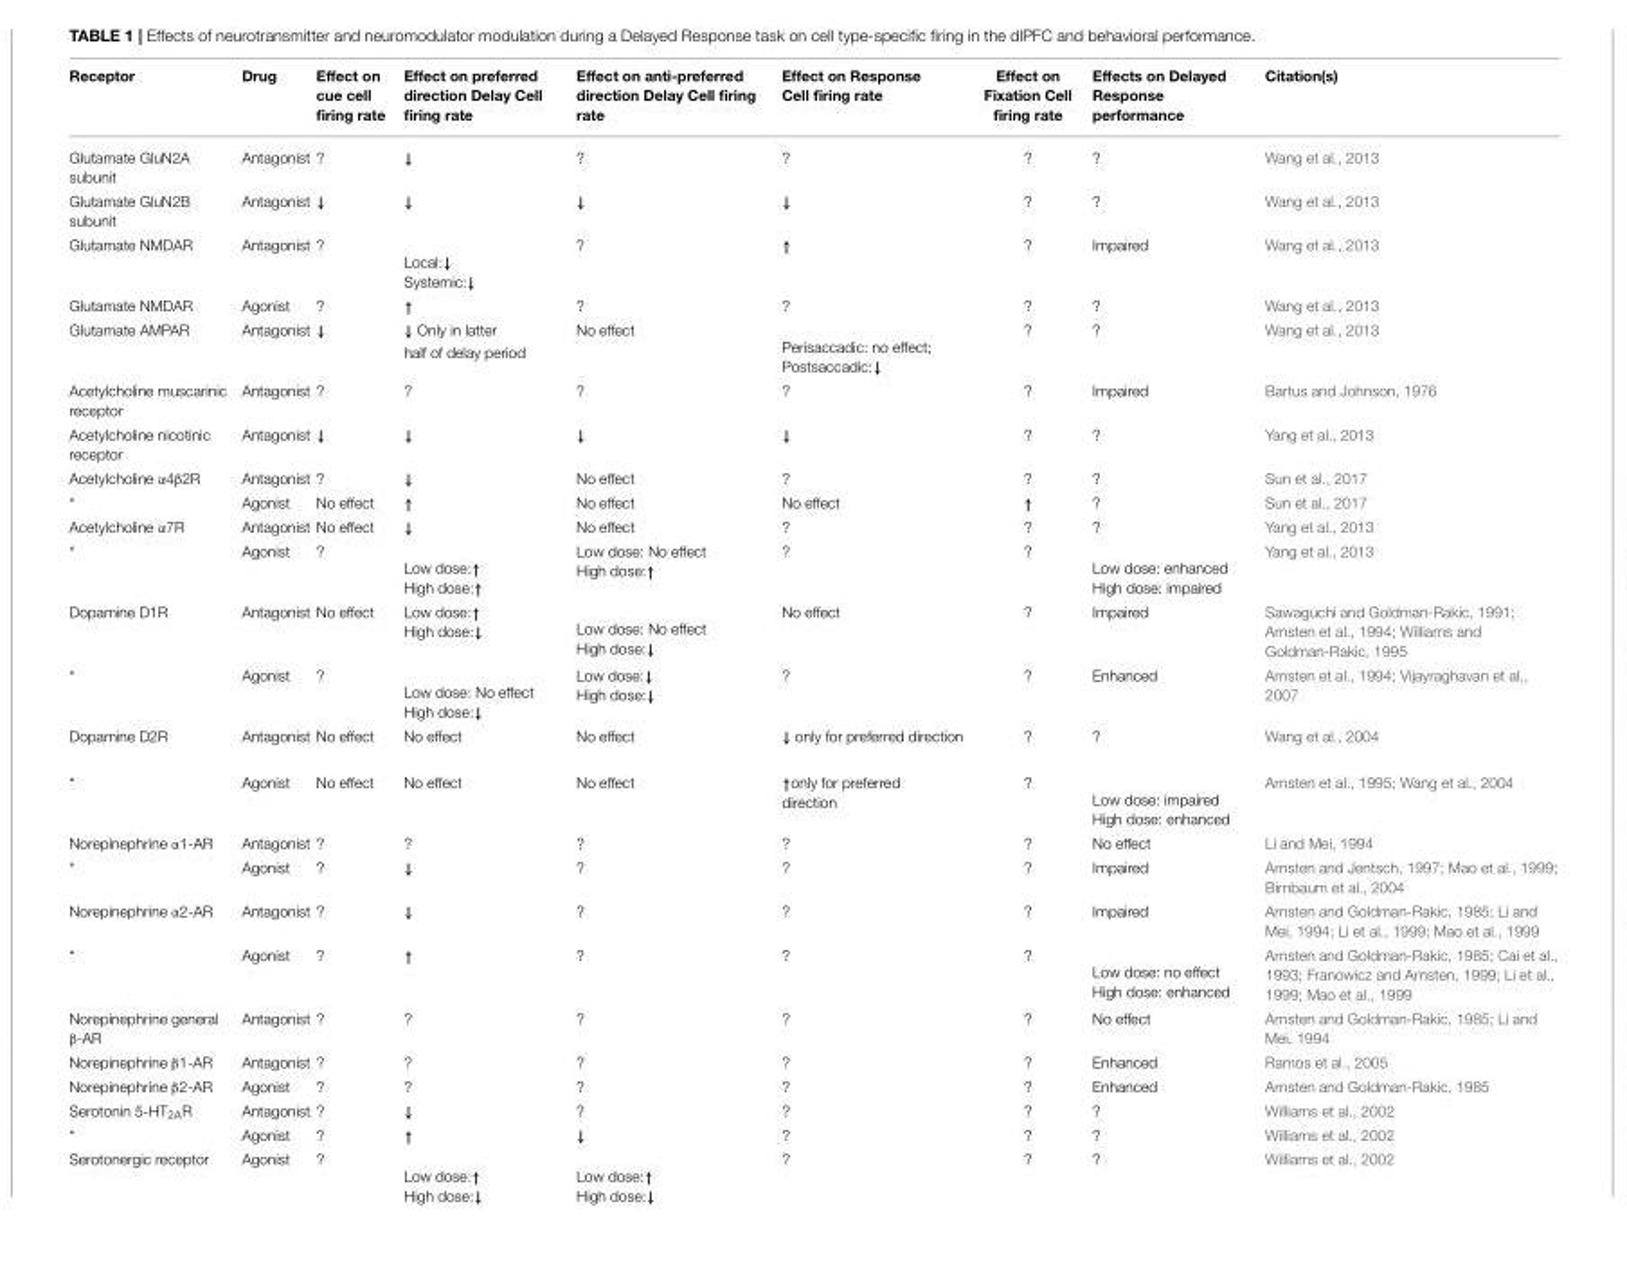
<table><thead><tr><td>Receptor</td><td>Drug</td><td>Effect on cue cell firing rate</td><td>Effect on preferred direction Delay Cell firing rate</td><td>Effect on anti-preferred direction Delay Cell firing rate</td><td>Effect on Response Cell firing rate</td><td>Effect on Fixation Cell firing rate</td><td>Effects on Delayed Response performance</td><td>Citation(s)</td></tr></thead><tbody><tr><td>Glutamate GluN2A subunit</td><td>Antagonist</td><td>?</td><td>↓</td><td>?</td><td>?</td><td>?</td><td>?</td><td>Wang et al., 2013</td></tr><tr><td>Glutamate GluN2B subunit</td><td>Antagonist</td><td>↓</td><td>↓</td><td>↓</td><td>↓</td><td>?</td><td>?</td><td>Wang et al., 2013</td></tr><tr><td>Glutamate NMDAR</td><td>Antagonist</td><td>?</td><td>Local:↓ Systemic:↓</td><td>?</td><td>↑</td><td>?</td><td>Impaired</td><td>Wang et al., 2013</td></tr><tr><td>Glutamate NMDAR</td><td>Agonist</td><td>?</td><td>↑</td><td>?</td><td>?</td><td>?</td><td>?</td><td>Wang et al., 2013</td></tr><tr><td>Glutamate AMPAR</td><td>Antagonist</td><td>↓</td><td>↓ Only in latter half of delay period</td><td>No effect</td><td>Perisaccadic: no effect; Postsaccadic:↓</td><td>?</td><td>?</td><td>Wang et al., 2013</td></tr><tr><td>Acetylcholine muscarinic receptor</td><td>Antagonist</td><td>?</td><td>?</td><td>?</td><td>?</td><td>?</td><td>Impaired</td><td>Bartus and Johnson, 1976</td></tr><tr><td>Acetylcholine nicotinic receptor</td><td>Antagonist</td><td>↓</td><td>↓</td><td>↓</td><td>↓</td><td>?</td><td>?</td><td>Yang et al., 2013</td></tr><tr><td>Acetylcholine α4β2R</td><td>Antagonist</td><td>?</td><td>↓</td><td>No effect</td><td>?</td><td>?</td><td>?</td><td>Sun et al., 2017</td></tr><tr><td>“</td><td>Agonist</td><td>No effect</td><td>↑</td><td>No effect</td><td>No effect</td><td>↑</td><td>?</td><td>Sun et al., 2017</td></tr><tr><td>Acetylcholine α7R</td><td>Antagonist</td><td>No effect</td><td>↓</td><td>No effect</td><td>?</td><td>?</td><td>?</td><td>Yang et al., 2013</td></tr><tr><td>“</td><td>Agonist</td><td>?</td><td>Low dose:↑ High dose:↑</td><td>Low dose: No effect High dose:↑</td><td>?</td><td>?</td><td>Low dose: enhanced High dose: impaired</td><td>Yang et al., 2013</td></tr><tr><td>Dopamine D1R</td><td>Antagonist</td><td>No effect</td><td>Low dose:↑ High dose:↓</td><td>Low dose: No effect High dose:↓</td><td>No effect</td><td>?</td><td>Impaired</td><td>Sawaguchi and Goldman-Rakic, 1991; Arnsten et al., 1994; Williams and Goldman-Rakic, 1995</td></tr><tr><td>“</td><td>Agonist</td><td>?</td><td>Low dose: No effect High dose:↓</td><td>Low dose:↓ High dose:↓</td><td>?</td><td>?</td><td>Enhanced</td><td>Arnsten et al., 1994; Vijayraghavan et al., 2007</td></tr><tr><td>Dopamine D2R</td><td>Antagonist</td><td>No effect</td><td>No effect</td><td>No effect</td><td>↓ only for preferred direction</td><td>?</td><td>?</td><td>Wang et al., 2004</td></tr><tr><td>“</td><td>Agonist</td><td>No effect</td><td>No effect</td><td>No effect</td><td>↑only for preferred direction</td><td>?</td><td>Low dose: impaired High dose: enhanced</td><td>Arnsten et al., 1995; Wang et al., 2004</td></tr><tr><td>Norepinephrine α1-AR</td><td>Antagonist</td><td>?</td><td>?</td><td>?</td><td>?</td><td>?</td><td>No effect</td><td>Li and Mei, 1994</td></tr><tr><td>“</td><td>Agonist</td><td>?</td><td>↓</td><td>?</td><td>?</td><td>?</td><td>Impaired</td><td>Arnsten and Jentsch, 1997; Mao et al., 1999; Birnbaum et al., 2004</td></tr><tr><td>Norepinephrine α2-AR</td><td>Antagonist</td><td>?</td><td>↓</td><td>?</td><td>?</td><td>?</td><td>Impaired</td><td>Arnsten and Goldman-Rakic, 1985; Li and Mei, 1994; Li et al., 1999; Mao et al., 1999</td></tr><tr><td>“</td><td>Agonist</td><td>?</td><td>↑</td><td>?</td><td>?</td><td>?</td><td>Low dose: no effect High dose: enhanced</td><td>Arnsten and Goldman-Rakic, 1985; Cai et al., 1993; Franowicz and Arnsten, 1999; Li et al., 1999; Mao et al., 1999</td></tr><tr><td>Norepinephrine general β-AR</td><td>Antagonist</td><td>?</td><td>?</td><td>?</td><td>?</td><td>?</td><td>No effect</td><td>Arnsten and Goldman-Rakic, 1985; Li and Mei, 1994</td></tr><tr><td>Norepinephrine β1-AR</td><td>Antagonist</td><td>?</td><td>?</td><td>?</td><td>?</td><td>?</td><td>Enhanced</td><td>Ramos et al., 2005</td></tr><tr><td>Norepinephrine β2-AR</td><td>Agonist</td><td>?</td><td>?</td><td>?</td><td>?</td><td>?</td><td>Enhanced</td><td>Arnsten and Goldman-Rakic, 1985</td></tr><tr><td>Serotonin 5-HT<sub>2A</sub>R</td><td>Antagonist</td><td>?</td><td>↓</td><td>?</td><td>?</td><td>?</td><td>?</td><td>Williams et al., 2002</td></tr><tr><td>“</td><td>Agonist</td><td>?</td><td>↑</td><td>↓</td><td>?</td><td>?</td><td>?</td><td>Williams et al., 2002</td></tr><tr><td>Serotonergic receptor</td><td>Agonist</td><td>?</td><td>Low dose:↑ High dose:↓</td><td>Low dose:↑ High dose:↓</td><td>?</td><td>?</td><td>?</td><td>Williams et al., 2002</td></tr></tbody></table>